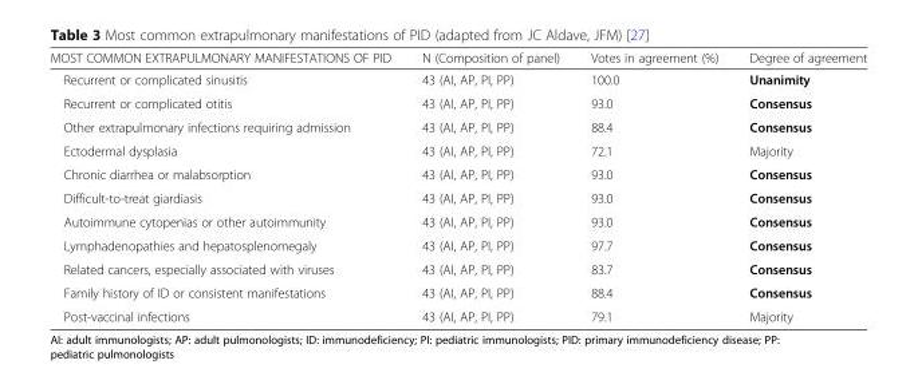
<table><thead><tr><td>MOST COMMON EXTRAPULMONARY MANIFESTATIONS OF PID</td><td>N (Composition of panel)</td><td>Votes in agreement (%)</td><td>Degree of agreement</td></tr></thead><tbody><tr><td>Recurrent or complicated sinusitis</td><td>43 (AI, AP, PI, PP)</td><td>100.0</td><td>Unanimity</td></tr><tr><td>Recurrent or complicated otitis</td><td>43 (AI, AP, PI, PP)</td><td>93.0</td><td>Consensus</td></tr><tr><td>Other extrapulmonary infections requiring admission</td><td>43 (AI, AP, PI, PP)</td><td>88.4</td><td>Consensus</td></tr><tr><td>Ectodermal dysplasia</td><td>43 (AI, AP, PI, PP)</td><td>72.1</td><td>Majority</td></tr><tr><td>Chronic diarrhea or malabsorption</td><td>43 (AI, AP, PI, PP)</td><td>93.0</td><td>Consensus</td></tr><tr><td>Difficult-to-treat giardiasis</td><td>43 (AI, AP, PI, PP)</td><td>93.0</td><td>Consensus</td></tr><tr><td>Autoimmune cytopenias or other autoimmunity</td><td>43 (AI, AP, PI, PP)</td><td>93.0</td><td>Consensus</td></tr><tr><td>Lymphadenopathies and hepatosplenomegaly</td><td>43 (AI, AP, PI, PP)</td><td>97.7</td><td>Consensus</td></tr><tr><td>Related cancers, especially associated with viruses</td><td>43 (AI, AP, PI, PP)</td><td>83.7</td><td>Consensus</td></tr><tr><td>Family history of ID or consistent manifestations</td><td>43 (AI, AP, PI, PP)</td><td>88.4</td><td>Consensus</td></tr><tr><td>Post-vaccinal infections</td><td>43 (AI, AP, PI, PP)</td><td>79.1</td><td>Majority</td></tr></tbody></table>